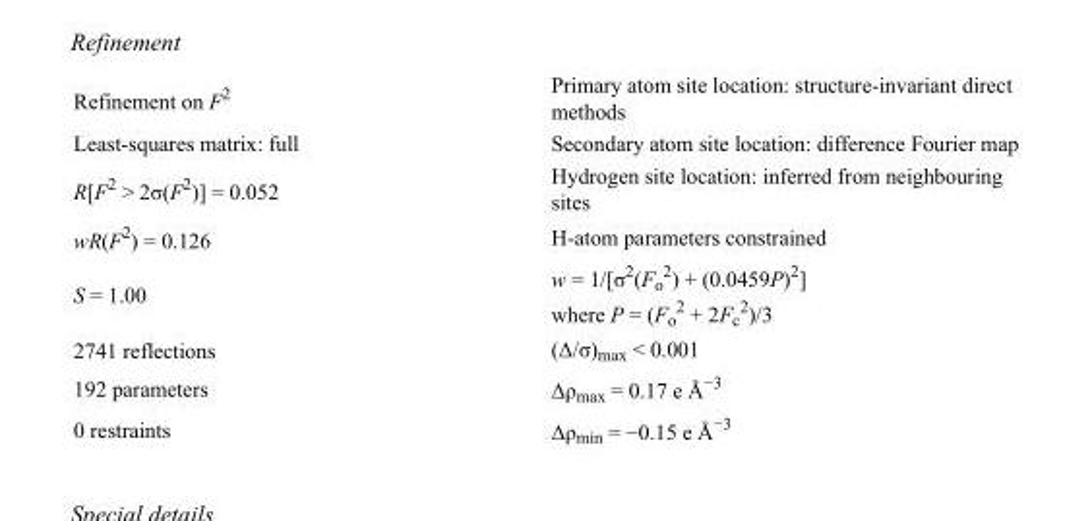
<table><tbody><tr><td>Refinement on F<sup>2</sup></td><td>Primary atom site location: structure-invariant direct methods</td></tr><tr><td>Least-squares matrix: full</td><td>Secondary atom site location: difference Fourier map</td></tr><tr><td>R[F<sup>2</sup> &gt; 2σ(F<sup>2</sup>)] = 0.052</td><td>Hydrogen site location: inferred from neighbouring sites</td></tr><tr><td>wR(F<sup>2</sup>) = 0.126</td><td>H-atom parameters constrained</td></tr><tr><td>S = 1.00</td><td>w = 1/[σ<sup>2</sup>(F<sub>o</sub> <sup>2</sup>) + (0.0459P)<sup>2</sup>] where P = (F<sub>o</sub> <sup>2</sup> + 2F<sub>c</sub> <sup>2</sup>)/3</td></tr><tr><td>2741 reflections</td><td>(Δ/σ)<sub>max</sub> &lt; 0.001</td></tr><tr><td>192 parameters</td><td>Δρ<sub>max</sub> = 0.17 e Å<sup>−3</sup></td></tr><tr><td>0 restraints</td><td>Δρ<sub>min</sub> = −0.15 e Å<sup>−3</sup></td></tr></tbody></table>